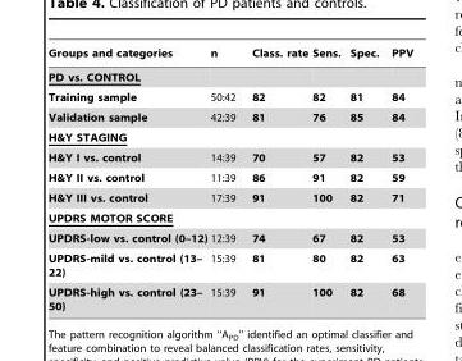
<table><thead><tr><td>Groups and categories</td><td>n</td><td>Class. rate</td><td>Sens.</td><td>Spec.</td><td>PPV</td></tr></thead><tbody><tr><td colspan="6">PD vs. CONTROL</td></tr><tr><td>Training sample</td><td>50:42</td><td>82</td><td>82</td><td>81</td><td>84</td></tr><tr><td>Validation sample</td><td>42:39</td><td>81</td><td>76</td><td>85</td><td>84</td></tr><tr><td colspan="6">H&amp;Y STAGING</td></tr><tr><td>H&amp;Y I vs. control</td><td>14:39</td><td>70</td><td>57</td><td>82</td><td>53</td></tr><tr><td>H&amp;Y II vs. control</td><td>11:39</td><td>86</td><td>91</td><td>82</td><td>59</td></tr><tr><td>H&amp;Y III vs. control</td><td>17:39</td><td>91</td><td>100</td><td>82</td><td>71</td></tr><tr><td colspan="6">UPDRS MOTOR SCORE</td></tr><tr><td>UPDRS-low vs. control (0–12)</td><td>12:39</td><td>74</td><td>67</td><td>82</td><td>53</td></tr><tr><td>UPDRS-mild vs. control (13– 22)</td><td>15:39</td><td>81</td><td>80</td><td>82</td><td>63</td></tr><tr><td>UPDRS-high vs. control (23– 50)</td><td>15:39</td><td>91</td><td>100</td><td>82</td><td>68</td></tr></tbody></table>